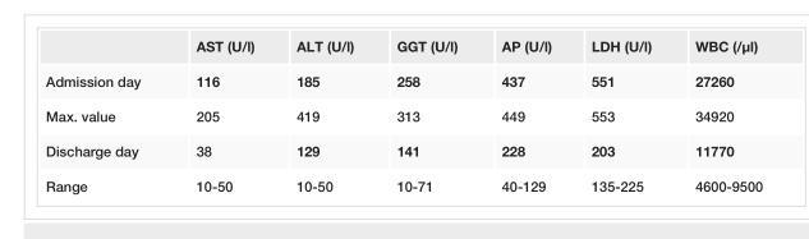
<table><thead><tr><td></td><td>AST (U/l)</td><td>ALT (U/l)</td><td>GGT (U/l)</td><td>AP (U/l)</td><td>LDH (U/l)</td><td>WBC (/µl)</td></tr></thead><tbody><tr><td>Admission day</td><td>116</td><td>185</td><td>258</td><td>437</td><td>551</td><td>27260</td></tr><tr><td>Max. value</td><td>205</td><td>419</td><td>313</td><td>449</td><td>553</td><td>34920</td></tr><tr><td>Discharge day</td><td>38</td><td>129</td><td>141</td><td>228</td><td>203</td><td>11770</td></tr><tr><td>Range</td><td>10-50</td><td>10-50</td><td>10-71</td><td>40-129</td><td>135-225</td><td>4600-9500</td></tr></tbody></table>